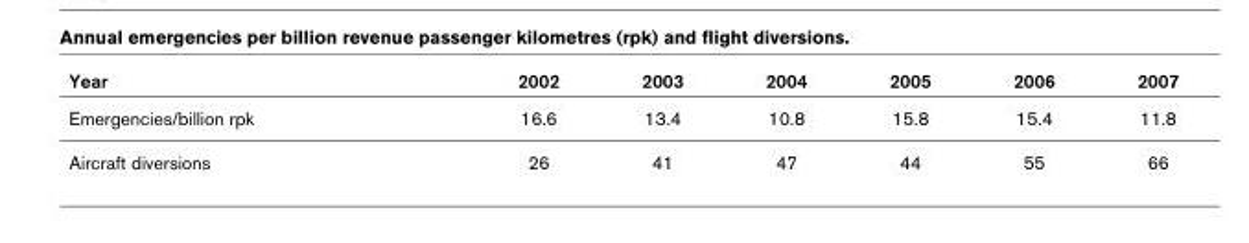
<table><thead><tr><td>Year</td><td>2002</td><td>2003</td><td>2004</td><td>2005</td><td>2006</td><td>2007</td></tr></thead><tbody><tr><td>Emergencies/billion rpk</td><td>16.6</td><td>13.4</td><td>10.8</td><td>15.8</td><td>15.4</td><td>11.8</td></tr><tr><td>Aircraft diversions</td><td>26</td><td>41</td><td>47</td><td>44</td><td>55</td><td>66</td></tr></tbody></table>